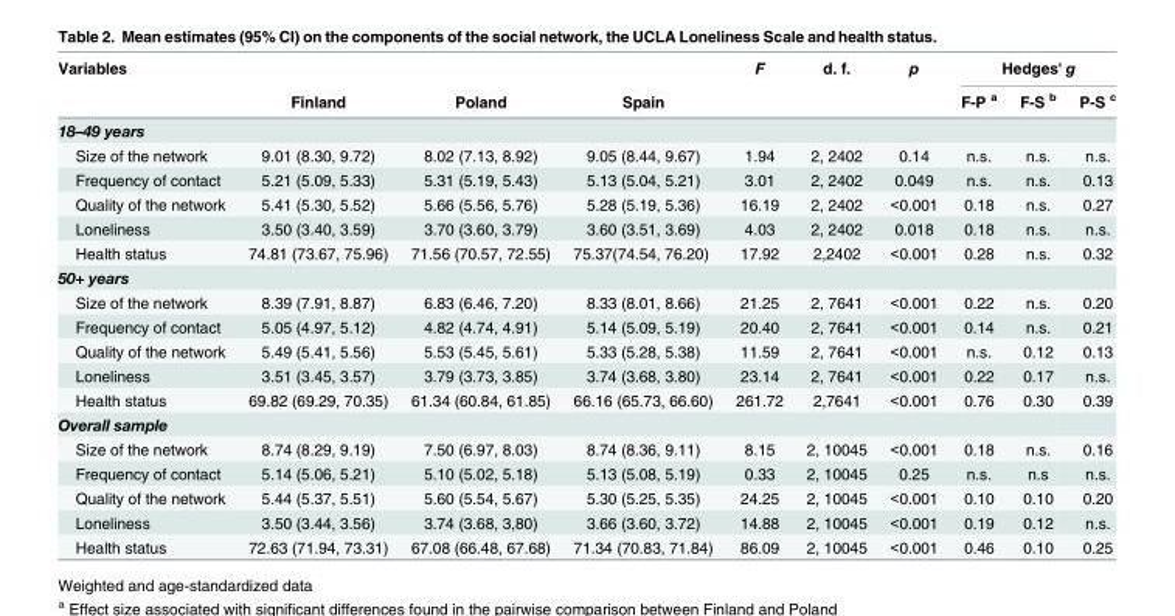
<table><thead><tr><td rowspan="2">Variables</td><td rowspan="2">Finland</td><td rowspan="2">Poland</td><td rowspan="2">Spain</td><td rowspan="2">F</td><td rowspan="2">d. f.</td><td rowspan="2">p</td><td colspan="3">Hedges&#x27; g</td></tr><tr><td>F-P <sup>a</sup></td><td>F-S <sup>b</sup></td><td>P-S <sup>c</sup></td></tr></thead><tbody><tr><td colspan="10">18–49 years</td></tr><tr><td>Size of the network</td><td>9.01 (8.30, 9.72)</td><td>8.02 (7.13, 8.92)</td><td>9.05 (8.44, 9.67)</td><td>1.94</td><td>2, 2402</td><td>0.14</td><td>n.s.</td><td>n.s.</td><td>n.s.</td></tr><tr><td>Frequency of contact</td><td>5.21 (5.09, 5.33)</td><td>5.31 (5.19, 5.43)</td><td>5.13 (5.04, 5.21)</td><td>3.01</td><td>2, 2402</td><td>0.049</td><td>n.s.</td><td>n.s.</td><td>0.13</td></tr><tr><td>Quality of the network</td><td>5.41 (5.30, 5.52)</td><td>5.66 (5.56, 5.76)</td><td>5.28 (5.19, 5.36)</td><td>16.19</td><td>2, 2402</td><td>&lt;0.001</td><td>0.18</td><td>n.s.</td><td>0.27</td></tr><tr><td>Loneliness</td><td>3.50 (3.40, 3.59)</td><td>3.70 (3.60, 3.79)</td><td>3.60 (3.51, 3.69)</td><td>4.03</td><td>2, 2402</td><td>0.018</td><td>0.18</td><td>n.s.</td><td>n.s.</td></tr><tr><td>Health status</td><td>74.81 (73.67, 75.96)</td><td>71.56 (70.57, 72.55)</td><td>75.37(74.54, 76.20)</td><td>17.92</td><td>2,2402</td><td>&lt;0.001</td><td>0.28</td><td>n.s.</td><td>0.32</td></tr><tr><td colspan="10">50+ years</td></tr><tr><td>Size of the network</td><td>8.39 (7.91, 8.87)</td><td>6.83 (6.46, 7.20)</td><td>8.33 (8.01, 8.66)</td><td>21.25</td><td>2, 7641</td><td>&lt;0.001</td><td>0.22</td><td>n.s.</td><td>0.20</td></tr><tr><td>Frequency of contact</td><td>5.05 (4.97, 5.12)</td><td>4.82 (4.74, 4.91)</td><td>5.14 (5.09, 5.19)</td><td>20.40</td><td>2, 7641</td><td>&lt;0.001</td><td>0.14</td><td>n.s.</td><td>0.21</td></tr><tr><td>Quality of the network</td><td>5.49 (5.41, 5.56)</td><td>5.53 (5.45, 5.61)</td><td>5.33 (5.28, 5.38)</td><td>11.59</td><td>2, 7641</td><td>&lt;0.001</td><td>n.s.</td><td>0.12</td><td>0.13</td></tr><tr><td>Loneliness</td><td>3.51 (3.45, 3.57)</td><td>3.79 (3.73, 3.85)</td><td>3.74 (3.68, 3.80)</td><td>23.14</td><td>2, 7641</td><td>&lt;0.001</td><td>0.22</td><td>0.17</td><td>n.s.</td></tr><tr><td>Health status</td><td>69.82 (69.29, 70.35)</td><td>61.34 (60.84, 61.85)</td><td>66.16 (65.73, 66.60)</td><td>261.72</td><td>2,7641</td><td>&lt;0.001</td><td>0.76</td><td>0.30</td><td>0.39</td></tr><tr><td colspan="10">Overall sample</td></tr><tr><td>Size of the network</td><td>8.74 (8.29, 9.19)</td><td>7.50 (6.97, 8.03)</td><td>8.74 (8.36, 9.11)</td><td>8.15</td><td>2, 10045</td><td>&lt;0.001</td><td>0.18</td><td>n.s.</td><td>0.16</td></tr><tr><td>Frequency of contact</td><td>5.14 (5.06, 5.21)</td><td>5.10 (5.02, 5.18)</td><td>5.13 (5.08, 5.19)</td><td>0.33</td><td>2, 10045</td><td>0.25</td><td>n.s.</td><td>n.s</td><td>n.s.</td></tr><tr><td>Quality of the network</td><td>5.44 (5.37, 5.51)</td><td>5.60 (5.54, 5.67)</td><td>5.30 (5.25, 5.35)</td><td>24.25</td><td>2, 10045</td><td>&lt;0.001</td><td>0.10</td><td>0.10</td><td>0.20</td></tr><tr><td>Loneliness</td><td>3.50 (3.44, 3.56)</td><td>3.74 (3.68, 3,80)</td><td>3.66 (3.60, 3.72)</td><td>14.88</td><td>2, 10045</td><td>&lt;0.001</td><td>0.19</td><td>0.12</td><td>n.s.</td></tr><tr><td>Health status</td><td>72.63 (71.94, 73.31)</td><td>67.08 (66.48, 67.68)</td><td>71.34 (70.83, 71.84)</td><td>86.09</td><td>2, 10045</td><td>&lt;0.001</td><td>0.46</td><td>0.10</td><td>0.25</td></tr></tbody></table>